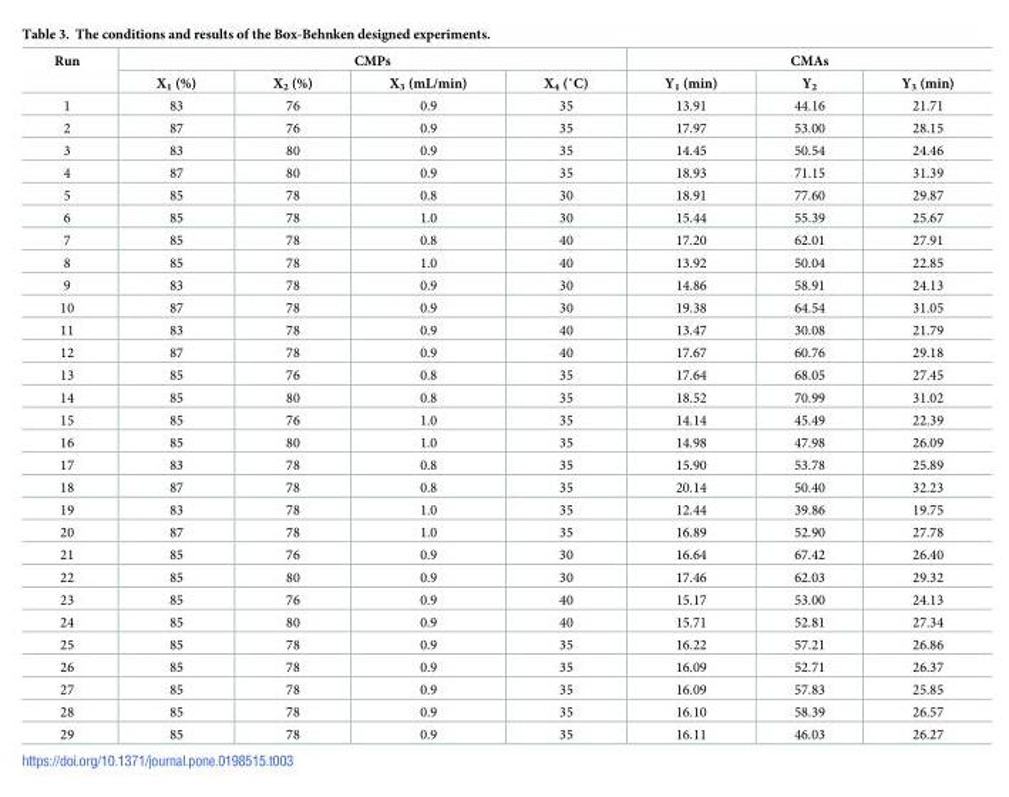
<table><thead><tr><td rowspan="2">Run</td><td colspan="4">CMPs</td><td colspan="3">CMAs</td></tr><tr><td>X<sub>1</sub> (%)</td><td>X<sub>2</sub> (%)</td><td>X<sub>3</sub> (mL/min)</td><td>X4 (˚C)</td><td>Y<sub>1</sub> (min)</td><td>Y<sub>2</sub></td><td>Y<sub>3</sub> (min)</td></tr></thead><tbody><tr><td>1</td><td>83</td><td>76</td><td>0.9</td><td>35</td><td>13.91</td><td>44.16</td><td>21.71</td></tr><tr><td>2</td><td>87</td><td>76</td><td>0.9</td><td>35</td><td>17.97</td><td>53.00</td><td>28.15</td></tr><tr><td>3</td><td>83</td><td>80</td><td>0.9</td><td>35</td><td>14.45</td><td>50.54</td><td>24.46</td></tr><tr><td>4</td><td>87</td><td>80</td><td>0.9</td><td>35</td><td>18.93</td><td>71.15</td><td>31.39</td></tr><tr><td>5</td><td>85</td><td>78</td><td>0.8</td><td>30</td><td>18.91</td><td>77.60</td><td>29.87</td></tr><tr><td>6</td><td>85</td><td>78</td><td>1.0</td><td>30</td><td>15.44</td><td>55.39</td><td>25.67</td></tr><tr><td>7</td><td>85</td><td>78</td><td>0.8</td><td>40</td><td>17.20</td><td>62.01</td><td>27.91</td></tr><tr><td>8</td><td>85</td><td>78</td><td>1.0</td><td>40</td><td>13.92</td><td>50.04</td><td>22.85</td></tr><tr><td>9</td><td>83</td><td>78</td><td>0.9</td><td>30</td><td>14.86</td><td>58.91</td><td>24.13</td></tr><tr><td>10</td><td>87</td><td>78</td><td>0.9</td><td>30</td><td>19.38</td><td>64.54</td><td>31.05</td></tr><tr><td>11</td><td>83</td><td>78</td><td>0.9</td><td>40</td><td>13.47</td><td>30.08</td><td>21.79</td></tr><tr><td>12</td><td>87</td><td>78</td><td>0.9</td><td>40</td><td>17.67</td><td>60.76</td><td>29.18</td></tr><tr><td>13</td><td>85</td><td>76</td><td>0.8</td><td>35</td><td>17.64</td><td>68.05</td><td>27.45</td></tr><tr><td>14</td><td>85</td><td>80</td><td>0.8</td><td>35</td><td>18.52</td><td>70.99</td><td>31.02</td></tr><tr><td>15</td><td>85</td><td>76</td><td>1.0</td><td>35</td><td>14.14</td><td>45.49</td><td>22.39</td></tr><tr><td>16</td><td>85</td><td>80</td><td>1.0</td><td>35</td><td>14.98</td><td>47.98</td><td>26.09</td></tr><tr><td>17</td><td>83</td><td>78</td><td>0.8</td><td>35</td><td>15.90</td><td>53.78</td><td>25.89</td></tr><tr><td>18</td><td>87</td><td>78</td><td>0.8</td><td>35</td><td>20.14</td><td>50.40</td><td>32.23</td></tr><tr><td>19</td><td>83</td><td>78</td><td>1.0</td><td>35</td><td>12.44</td><td>39.86</td><td>19.75</td></tr><tr><td>20</td><td>87</td><td>78</td><td>1.0</td><td>35</td><td>16.89</td><td>52.90</td><td>27.78</td></tr><tr><td>21</td><td>85</td><td>76</td><td>0.9</td><td>30</td><td>16.64</td><td>67.42</td><td>26.40</td></tr><tr><td>22</td><td>85</td><td>80</td><td>0.9</td><td>30</td><td>17.46</td><td>62.03</td><td>29.32</td></tr><tr><td>23</td><td>85</td><td>76</td><td>0.9</td><td>40</td><td>15.17</td><td>53.00</td><td>24.13</td></tr><tr><td>24</td><td>85</td><td>80</td><td>0.9</td><td>40</td><td>15.71</td><td>52.81</td><td>27.34</td></tr><tr><td>25</td><td>85</td><td>78</td><td>0.9</td><td>35</td><td>16.22</td><td>57.21</td><td>26.86</td></tr><tr><td>26</td><td>85</td><td>78</td><td>0.9</td><td>35</td><td>16.09</td><td>52.71</td><td>26.37</td></tr><tr><td>27</td><td>85</td><td>78</td><td>0.9</td><td>35</td><td>16.09</td><td>57.83</td><td>25.85</td></tr><tr><td>28</td><td>85</td><td>78</td><td>0.9</td><td>35</td><td>16.10</td><td>58.39</td><td>26.57</td></tr><tr><td>29</td><td>85</td><td>78</td><td>0.9</td><td>35</td><td>16.11</td><td>46.03</td><td>26.27</td></tr></tbody></table>